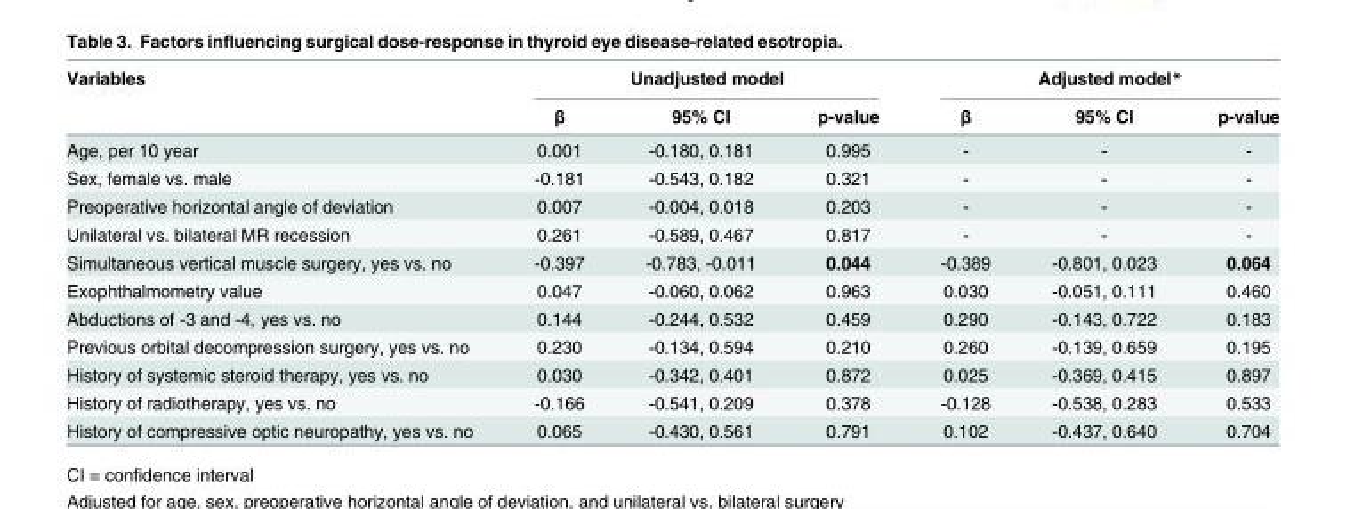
<table><thead><tr><td rowspan="2">Variables</td><td colspan="3">Unadjusted model</td><td colspan="3">Adjusted model*</td></tr><tr><td>β</td><td>95% CI</td><td>p-value</td><td>β</td><td>95% CI</td><td>p-value</td></tr></thead><tbody><tr><td>Age, per 10 year</td><td>0.001</td><td>-0.180, 0.181</td><td>0.995</td><td>-</td><td>-</td><td>-</td></tr><tr><td>Sex, female vs. male</td><td>-0.181</td><td>-0.543, 0.182</td><td>0.321</td><td>-</td><td>-</td><td>-</td></tr><tr><td>Preoperative horizontal angle of deviation</td><td>0.007</td><td>-0.004, 0.018</td><td>0.203</td><td>-</td><td>-</td><td>-</td></tr><tr><td>Unilateral vs. bilateral MR recession</td><td>0.261</td><td>-0.589, 0.467</td><td>0.817</td><td>-</td><td>-</td><td>-</td></tr><tr><td>Simultaneous vertical muscle surgery, yes vs. no</td><td>-0.397</td><td>-0.783, -0.011</td><td>0.044</td><td>-0.389</td><td>-0.801, 0.023</td><td>0.064</td></tr><tr><td>Exophthalmometry value</td><td>0.047</td><td>-0.060, 0.062</td><td>0.963</td><td>0.030</td><td>-0.051, 0.111</td><td>0.460</td></tr><tr><td>Abductions of -3 and -4, yes vs. no</td><td>0.144</td><td>-0.244, 0.532</td><td>0.459</td><td>0.290</td><td>-0.143, 0.722</td><td>0.183</td></tr><tr><td>Previous orbital decompression surgery, yes vs. no</td><td>0.230</td><td>-0.134, 0.594</td><td>0.210</td><td>0.260</td><td>-0.139, 0.659</td><td>0.195</td></tr><tr><td>History of systemic steroid therapy, yes vs. no</td><td>0.030</td><td>-0.342, 0.401</td><td>0.872</td><td>0.025</td><td>-0.369, 0.415</td><td>0.897</td></tr><tr><td>History of radiotherapy, yes vs. no</td><td>-0.166</td><td>-0.541, 0.209</td><td>0.378</td><td>-0.128</td><td>-0.538, 0.283</td><td>0.533</td></tr><tr><td>History of compressive optic neuropathy, yes vs. no</td><td>0.065</td><td>-0.430, 0.561</td><td>0.791</td><td>0.102</td><td>-0.437, 0.640</td><td>0.704</td></tr></tbody></table>